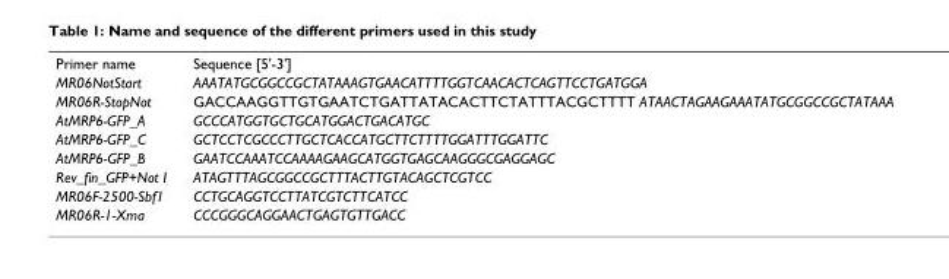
<table><tbody><tr><td>Primer name</td><td>Sequence [5&#x27;-3&#x27;]</td></tr><tr><td>MR06NotStart</td><td>AAATATGCGGCCGCTATAAAGTGAACATTTTGGTCAACACTCAGTTCCTGATGGA</td></tr><tr><td>MR06R-StopNot</td><td>GACCAAGGTTGTGAATCTGATTATACACTTCTATTTACGCTTTT ATAACTAGAAGAAATATGCGGCCGCTATAAA</td></tr><tr><td>AtMRP6-GFP_A</td><td>GCCCATGGTGCTGCATGGACTGACATGC</td></tr><tr><td>AtMRP6-GFP_C</td><td>GCTCCTCGCCCTTGCTCACCATGCTTCTTTTGGATTTGGATTC</td></tr><tr><td>AtMRP6-GFP_B</td><td>GAATCCAAATCCAAAAGAAGCATGGTGAGCAAGGGCGAGGAGC</td></tr><tr><td>Rev_fin_GFP+Not I</td><td>ATAGTTTAGCGGCCGCTTTACTTGTACAGCTCGTCC</td></tr><tr><td>MR06F-2500-Sbf1</td><td>CCTGCAGGTCCTTATCGTCTTCATCC</td></tr><tr><td>MR06R-1-Xma</td><td>CCCGGGCAGGAACTGAGTGTTGACC</td></tr></tbody></table>